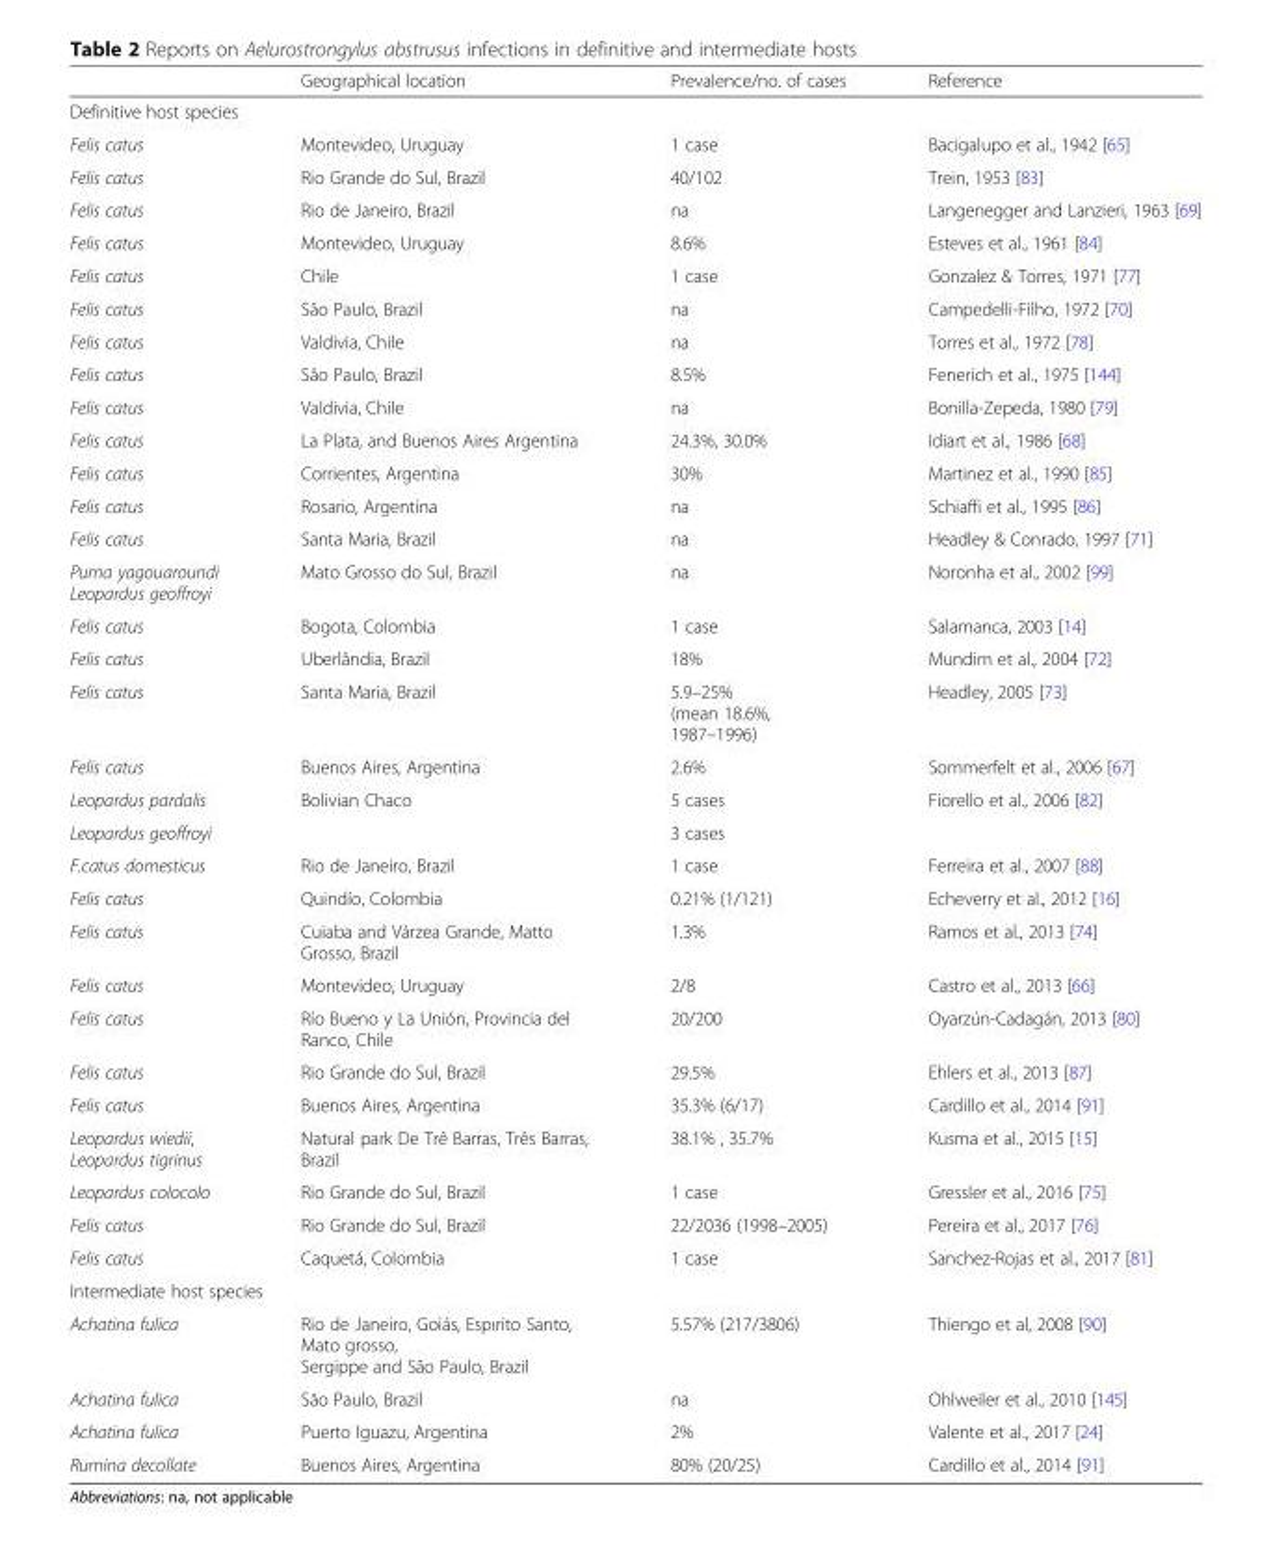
<table><thead><tr><td></td><td>Geographical location</td><td>Prevalence/no. of cases</td><td>Reference</td></tr></thead><tbody><tr><td colspan="4">Definitive host species</td></tr><tr><td>Felis catus</td><td>Montevideo, Uruguay</td><td>1 case</td><td>Bacigalupo et al., 1942 [65]</td></tr><tr><td>Felis catus</td><td>Rio Grande do Sul, Brazil</td><td>40/102</td><td>Trein, 1953 [83]</td></tr><tr><td>Felis catus</td><td>Rio de Janeiro, Brazil</td><td>na</td><td>Langenegger and Lanzieri, 1963 [69]</td></tr><tr><td>Felis catus</td><td>Montevideo, Uruguay</td><td>8.6%</td><td>Esteves et al., 1961 [84]</td></tr><tr><td>Felis catus</td><td>Chile</td><td>1 case</td><td>Gonzalez &amp; Torres, 1971 [77]</td></tr><tr><td>Felis catus</td><td>São Paulo, Brazil</td><td>na</td><td>Campedelli-Filho, 1972 [70]</td></tr><tr><td>Felis catus</td><td>Valdivia, Chile</td><td>na</td><td>Torres et al., 1972 [78]</td></tr><tr><td>Felis catus</td><td>Sâo Paulo, Brazil</td><td>8.5%</td><td>Fenerich et al., 1975 [144]</td></tr><tr><td>Felis catus</td><td>Valdivia, Chile</td><td>na</td><td>Bonilla-Zepeda, 1980 [79]</td></tr><tr><td>Felis catus</td><td>La Plata, and Buenos Aires Argentina</td><td>24.3%, 30.0%</td><td>Idiart et al., 1986 [68]</td></tr><tr><td>Felis catus</td><td>Corrientes, Argentina</td><td>30%</td><td>Martinez et al., 1990 [85]</td></tr><tr><td>Felis catus</td><td>Rosario, Argentina</td><td>na</td><td>Schiaffi et al., 1995 [86]</td></tr><tr><td>Felis catus</td><td>Santa Maria, Brazil</td><td>na</td><td>Headley &amp; Conrado, 1997 [71]</td></tr><tr><td>Puma yagouaroundi Leopardus geoffroyi</td><td>Mato Grosso do Sul, Brazil</td><td>na</td><td>Noronha et al., 2002 [99]</td></tr><tr><td>Felis catus</td><td>Bogota, Colombia</td><td>1 case</td><td>Salamanca, 2003 [14]</td></tr><tr><td>Felis catus</td><td>Uberlândia, Brazil</td><td>18%</td><td>Mundim et al., 2004 [72]</td></tr><tr><td>Felis catus</td><td>Santa Maria, Brazil</td><td>5.9–25% (mean 18.6%, 1987–1996)</td><td>Headley, 2005 [73]</td></tr><tr><td>Felis catus</td><td>Buenos Aires, Argentina</td><td>2.6%</td><td>Sommerfelt et al., 2006 [67]</td></tr><tr><td>Leopardus pardalis</td><td>Bolivian Chaco</td><td>5 cases</td><td>Fiorello et al., 2006 [82]</td></tr><tr><td>Leopardus geoffroyi</td><td></td><td>3 cases</td><td></td></tr><tr><td>F.catus domesticus</td><td>Rio de Janeiro, Brazil</td><td>1 case</td><td>Ferreira et al., 2007 [88]</td></tr><tr><td>Felis catus</td><td>Quindío, Colombia</td><td>0.21% (1/121)</td><td>Echeverry et al., 2012 [16]</td></tr><tr><td>Felis catus</td><td>Cuiaba and Várzea Grande, Matto Grosso, Brazil</td><td>1.3%</td><td>Ramos et al., 2013 [74]</td></tr><tr><td>Felis catus</td><td>Montevideo, Uruguay</td><td>2/8</td><td>Castro et al., 2013 [66]</td></tr><tr><td>Felis catus</td><td>Río Bueno y La Unión, Provincia del Ranco, Chile</td><td>20/200</td><td>Oyarzún-Cadagán, 2013 [80]</td></tr><tr><td>Felis catus</td><td>Rio Grande do Sul, Brazil</td><td>29.5%</td><td>Ehlers et al., 2013 [87]</td></tr><tr><td>Felis catus</td><td>Buenos Aires, Argentina</td><td>35.3% (6/17)</td><td>Cardillo et al., 2014 [91]</td></tr><tr><td>Leopardus wiedii, Leopardus tigrinus</td><td>Natural park De Trê Barras, Três Barras, Brazil</td><td>38.1% , 35.7%</td><td>Kusma et al., 2015 [15]</td></tr><tr><td>Leopardus colocolo</td><td>Rio Grande do Sul, Brazil</td><td>1 case</td><td>Gressler et al., 2016 [75]</td></tr><tr><td>Felis catus</td><td>Rio Grande do Sul, Brazil</td><td>22/2036 (1998–2005)</td><td>Pereira et al., 2017 [76]</td></tr><tr><td>Felis catus</td><td>Caquetá, Colombia</td><td>1 case</td><td>Sanchez-Rojas et al., 2017 [81]</td></tr><tr><td colspan="4">Intermediate host species</td></tr><tr><td>Achatina fulica</td><td>Rio de Janeiro, Goiás, Espırito Santo, Mato grosso, Sergippe and São Paulo, Brazil</td><td>5.57% (217/3806)</td><td>Thiengo et al, 2008 [90]</td></tr><tr><td>Achatina fulica</td><td>São Paulo, Brazil</td><td>na</td><td>Ohlweiler et al., 2010 [145]</td></tr><tr><td>Achatina fulica</td><td>Puerto Iguazu, Argentina</td><td>2%</td><td>Valente et al., 2017 [24]</td></tr><tr><td>Rumina decollate</td><td>Buenos Aires, Argentina</td><td>80% (20/25)</td><td>Cardillo et al., 2014 [91]</td></tr></tbody></table>